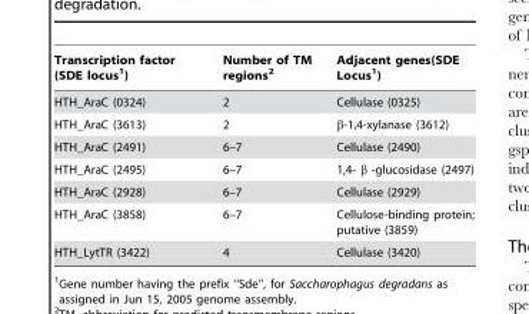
<table><thead><tr><td>Transcription factor (SDE locus<sup>1</sup>)</td><td>Number of TM regions<sup>2</sup></td><td>Adjacent genes(SDE Locus<sup>1</sup>)</td></tr></thead><tbody><tr><td>HTH_AraC (0324)</td><td>2</td><td>Cellulase (0325)</td></tr><tr><td>HTH_AraC (3613)</td><td>2</td><td>β-1,4-xylanase (3612)</td></tr><tr><td>HTH_AraC (2491)</td><td>6–7</td><td>Cellulase (2490)</td></tr><tr><td>HTH_AraC (2495)</td><td>6–7</td><td>1,4- β -glucosidase (2497)</td></tr><tr><td>HTH_AraC (2928)</td><td>6–7</td><td>Cellulase (2929)</td></tr><tr><td>HTH_AraC (3858)</td><td>6–7</td><td>Cellulose-binding protein; putative (3859)</td></tr><tr><td>HTH_LytTR (3422)</td><td>4</td><td>Cellulase (3420)</td></tr></tbody></table>